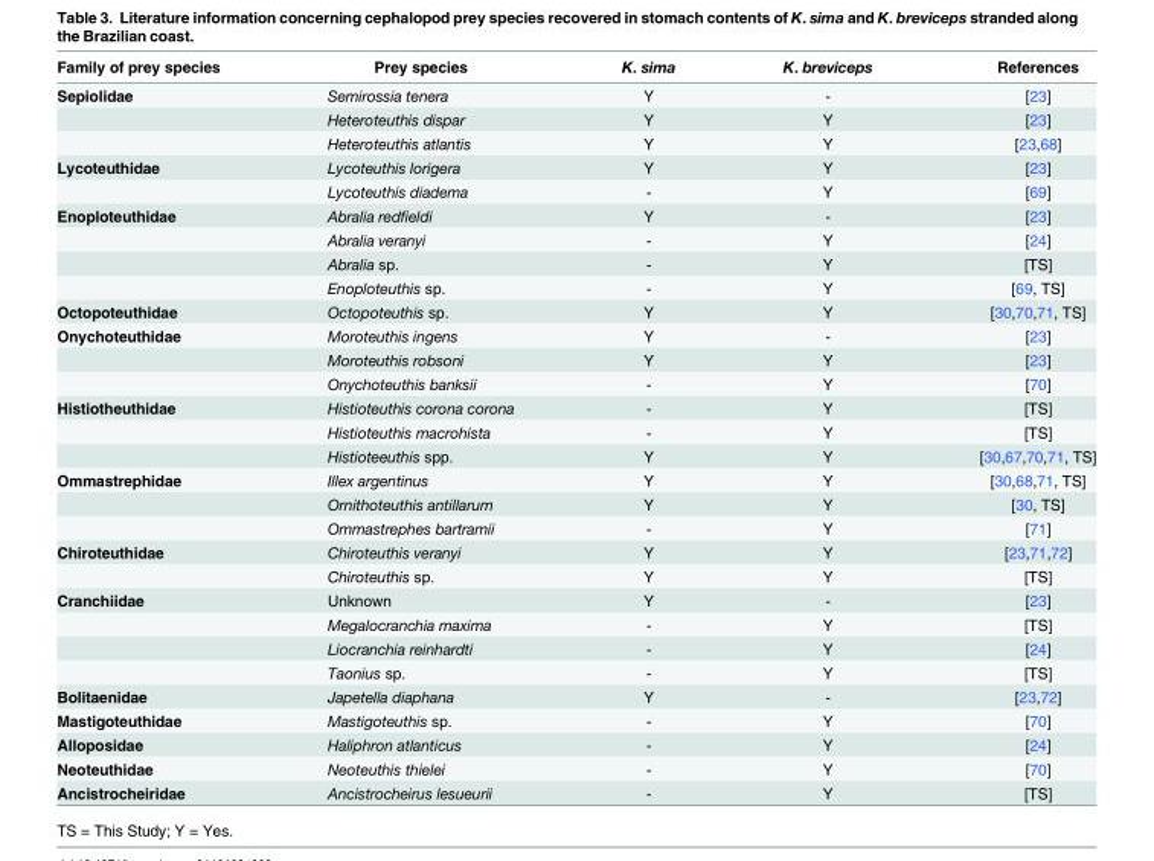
<table><thead><tr><td>Family of prey species</td><td>Prey species</td><td>K. sima</td><td>K. breviceps</td><td>References</td></tr></thead><tbody><tr><td rowspan="3">Sepiolidae</td><td>Semirossia tenera</td><td>Y</td><td>-</td><td>[23]</td></tr><tr><td>Heteroteuthis dispar</td><td>Y</td><td>Y</td><td>[23]</td></tr><tr><td>Heteroteuthis atlantis</td><td>Y</td><td>Y</td><td>[23,68]</td></tr><tr><td rowspan="2">Lycoteuthidae</td><td>Lycoteuthis lorigera</td><td>Y</td><td>Y</td><td>[23]</td></tr><tr><td>Lycoteuthis diadema</td><td>-</td><td>Y</td><td>[69]</td></tr><tr><td rowspan="4">Enoploteuthidae</td><td>Abralia redfieldi</td><td>Y</td><td>-</td><td>[23]</td></tr><tr><td>Abralia veranyi</td><td>-</td><td>Y</td><td>[24]</td></tr><tr><td>Abralia sp.</td><td>-</td><td>Y</td><td>[TS]</td></tr><tr><td>Enoploteuthis sp.</td><td>-</td><td>Y</td><td>[69, TS]</td></tr><tr><td>Octopoteuthidae</td><td>Octopoteuthis sp.</td><td>Y</td><td>Y</td><td>[30,70,71, TS]</td></tr><tr><td rowspan="3">Onychoteuthidae</td><td>Moroteuthis ingens</td><td>Y</td><td>-</td><td>[23]</td></tr><tr><td>Moroteuthis robsoni</td><td>Y</td><td>Y</td><td>[23]</td></tr><tr><td>Onychoteuthis banksii</td><td>-</td><td>Y</td><td>[70]</td></tr><tr><td rowspan="3">Histiotheuthidae</td><td>Histioteuthis corona corona</td><td>-</td><td>Y</td><td>[TS]</td></tr><tr><td>Histioteuthis macrohista</td><td>-</td><td>Y</td><td>[TS]</td></tr><tr><td>Histioteeuthis spp.</td><td>Y</td><td>Y</td><td>[30,67,70,71, TS]</td></tr><tr><td rowspan="3">Ommastrephidae</td><td>Illex argentinus</td><td>Y</td><td>Y</td><td>[30,68,71, TS]</td></tr><tr><td>Ornithoteuthis antillarum</td><td>Y</td><td>Y</td><td>[30, TS]</td></tr><tr><td>Ommastrephes bartramii</td><td>-</td><td>Y</td><td>[71]</td></tr><tr><td rowspan="2">Chiroteuthidae</td><td>Chiroteuthis veranyi</td><td>Y</td><td>Y</td><td>[23,71,72]</td></tr><tr><td>Chiroteuthis sp.</td><td>Y</td><td>Y</td><td>[TS]</td></tr><tr><td rowspan="4">Cranchiidae</td><td>Unknown</td><td>Y</td><td>-</td><td>[23]</td></tr><tr><td>Megalocranchia maxima</td><td>-</td><td>Y</td><td>[TS]</td></tr><tr><td>Liocranchia reinhardti</td><td>-</td><td>Y</td><td>[24]</td></tr><tr><td>Taonius sp.</td><td>-</td><td>Y</td><td>[TS]</td></tr><tr><td>Bolitaenidae</td><td>Japetella diaphana</td><td>Y</td><td>-</td><td>[23,72]</td></tr><tr><td>Mastigoteuthidae</td><td>Mastigoteuthis sp.</td><td>-</td><td>Y</td><td>[70]</td></tr><tr><td>Alloposidae</td><td>Haliphron atlanticus</td><td>-</td><td>Y</td><td>[24]</td></tr><tr><td>Neoteuthidae</td><td>Neoteuthis thielei</td><td>-</td><td>Y</td><td>[70]</td></tr><tr><td>Ancistrocheiridae</td><td>Ancistrocheirus lesueurii</td><td>-</td><td>Y</td><td>[TS]</td></tr></tbody></table>